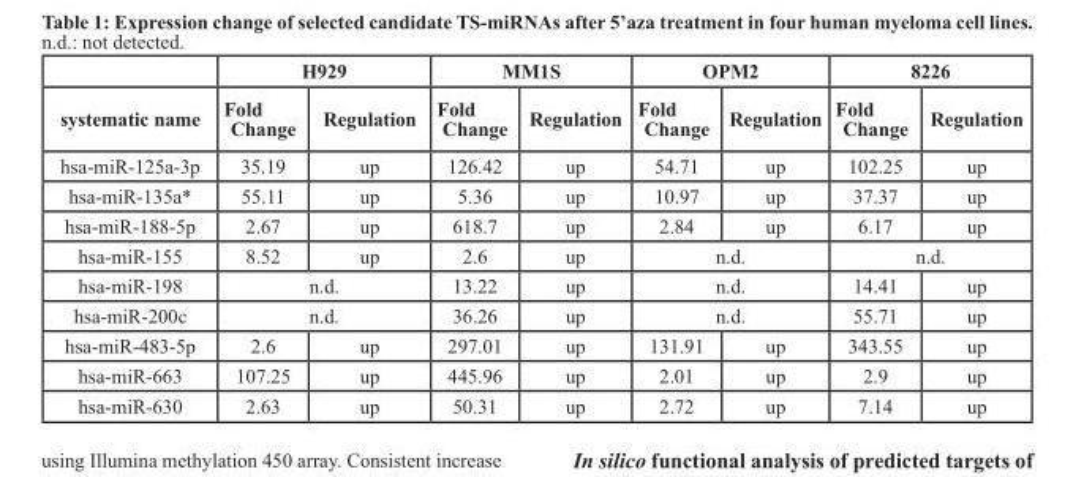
<table><thead><tr><td rowspan="2">systematic name</td><td colspan="2">H929</td><td colspan="2">MM1S</td><td colspan="2">OPM2</td><td colspan="2">8226</td></tr><tr><td>Fold Change</td><td>Regulation</td><td>Fold Change</td><td>Regulation</td><td>Fold Change</td><td>Regulation</td><td>Fold Change</td><td>Regulation</td></tr></thead><tbody><tr><td>hsa-miR-125a-3p</td><td>35.19</td><td>up</td><td>126.42</td><td>up</td><td>54.71</td><td>up</td><td>102.25</td><td>up</td></tr><tr><td>hsa-miR-135a*</td><td>55.11</td><td>up</td><td>5.36</td><td>up</td><td>10.97</td><td>up</td><td>37.37</td><td>up</td></tr><tr><td>hsa-miR-188-5p</td><td>2.67</td><td>up</td><td>618.7</td><td>up</td><td>2.84</td><td>up</td><td>6.17</td><td>up</td></tr><tr><td>hsa-miR-155</td><td>8.52</td><td>up</td><td>2.6</td><td>up</td><td colspan="2">n.d.</td><td colspan="2">n.d.</td></tr><tr><td>hsa-miR-198</td><td colspan="2">n.d.</td><td>13.22</td><td>up</td><td colspan="2">n.d.</td><td>14.41</td><td>up</td></tr><tr><td>hsa-miR-200c</td><td colspan="2">n.d.</td><td>36.26</td><td>up</td><td colspan="2">n.d.</td><td>55.71</td><td>up</td></tr><tr><td>hsa-miR-483-5p</td><td>2.6</td><td>up</td><td>297.01</td><td>up</td><td>131.91</td><td>up</td><td>343.55</td><td>up</td></tr><tr><td>hsa-miR-663</td><td>107.25</td><td>up</td><td>445.96</td><td>up</td><td>2.01</td><td>up</td><td>2.9</td><td>up</td></tr><tr><td>hsa-miR-630</td><td>2.63</td><td>up</td><td>50.31</td><td>up</td><td>2.72</td><td>up</td><td>7.14</td><td>up</td></tr></tbody></table>